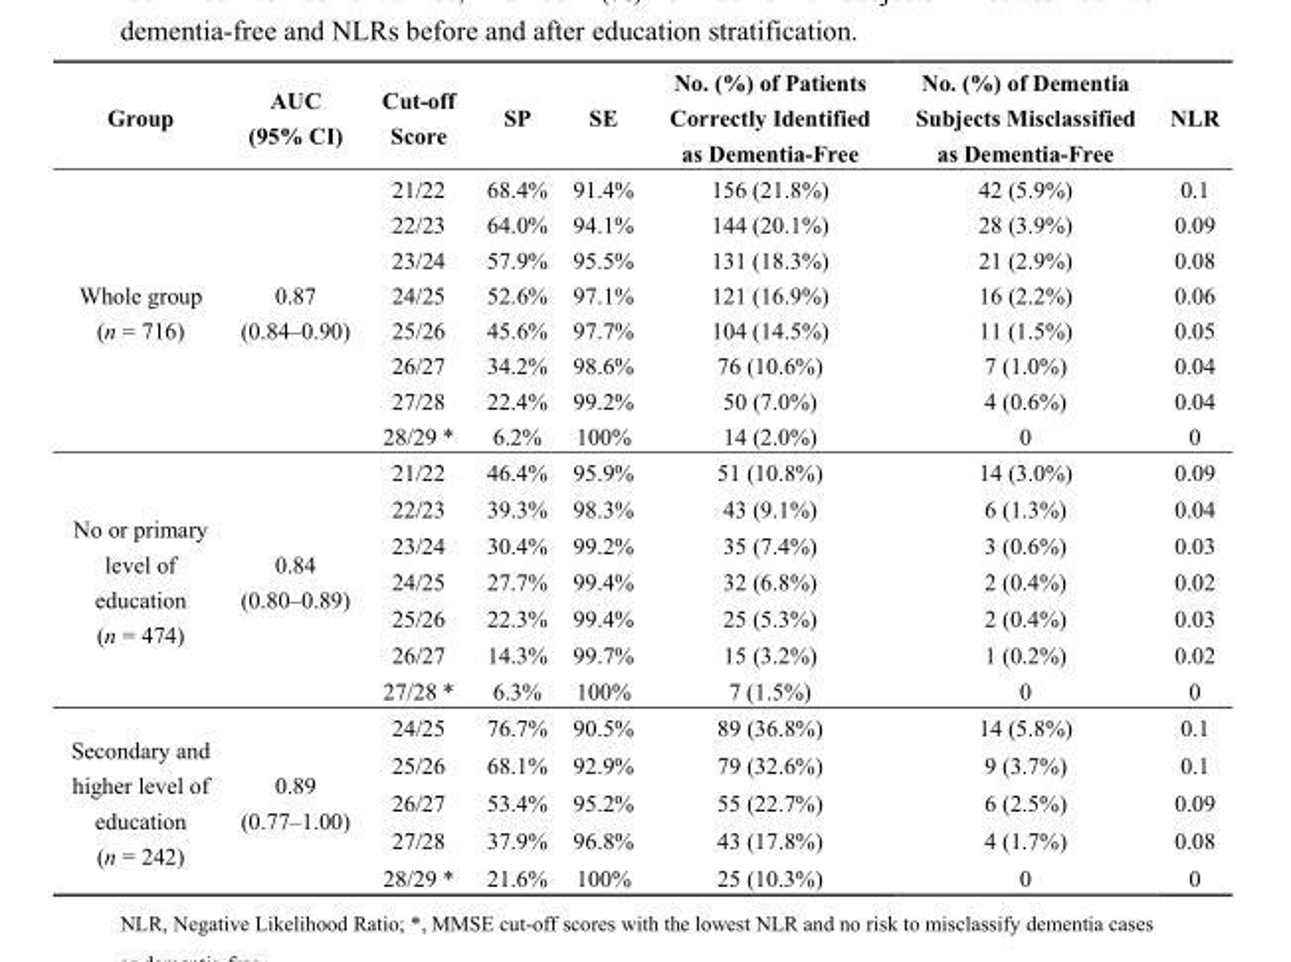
<table><thead><tr><td>Group</td><td>AUC (95% CI)</td><td>Cut-off Score</td><td>SP</td><td>SE</td><td>No. (%) of Patients Correctly Identified as Dementia-Free</td><td>No. (%) of Dementia Subjects Misclassified as Dementia-Free</td><td>NLR</td></tr></thead><tbody><tr><td rowspan="8">Whole group (n = 716)</td><td rowspan="8">0.87 (0.84–0.90)</td><td>21/22</td><td>68.4%</td><td>91.4%</td><td>156 (21.8%)</td><td>42 (5.9%)</td><td>0.1</td></tr><tr><td>22/23</td><td>64.0%</td><td>94.1%</td><td>144 (20.1%)</td><td>28 (3.9%)</td><td>0.09</td></tr><tr><td>23/24</td><td>57.9%</td><td>95.5%</td><td>131 (18.3%)</td><td>21 (2.9%)</td><td>0.08</td></tr><tr><td>24/25</td><td>52.6%</td><td>97.1%</td><td>121 (16.9%)</td><td>16 (2.2%)</td><td>0.06</td></tr><tr><td>25/26</td><td>45.6%</td><td>97.7%</td><td>104 (14.5%)</td><td>11 (1.5%)</td><td>0.05</td></tr><tr><td>26/27</td><td>34.2%</td><td>98.6%</td><td>76 (10.6%)</td><td>7 (1.0%)</td><td>0.04</td></tr><tr><td>27/28</td><td>22.4%</td><td>99.2%</td><td>50 (7.0%)</td><td>4 (0.6%)</td><td>0.04</td></tr><tr><td>28/29 *</td><td>6.2%</td><td>100%</td><td>14 (2.0%)</td><td>0</td><td>0</td></tr><tr><td rowspan="7">No or primary level of education (n = 474)</td><td rowspan="7">0.84 (0.80–0.89)</td><td>21/22</td><td>46.4%</td><td>95.9%</td><td>51 (10.8%)</td><td>14 (3.0%)</td><td>0.09</td></tr><tr><td>22/23</td><td>39.3%</td><td>98.3%</td><td>43 (9.1%)</td><td>6 (1.3%)</td><td>0.04</td></tr><tr><td>23/24</td><td>30.4%</td><td>99.2%</td><td>35 (7.4%)</td><td>3 (0.6%)</td><td>0.03</td></tr><tr><td>24/25</td><td>27.7%</td><td>99.4%</td><td>32 (6.8%)</td><td>2 (0.4%)</td><td>0.02</td></tr><tr><td>25/26</td><td>22.3%</td><td>99.4%</td><td>25 (5.3%)</td><td>2 (0.4%)</td><td>0.03</td></tr><tr><td>26/27</td><td>14.3%</td><td>99.7%</td><td>15 (3.2%)</td><td>1 (0.2%)</td><td>0.02</td></tr><tr><td>27/28 *</td><td>6.3%</td><td>100%</td><td>7 (1.5%)</td><td>0</td><td>0</td></tr><tr><td rowspan="5">Secondary and higher level of education (n = 242)</td><td rowspan="5">0.89 (0.77–1.00)</td><td>24/25</td><td>76.7%</td><td>90.5%</td><td>89 (36.8%)</td><td>14 (5.8%)</td><td>0.1</td></tr><tr><td>25/26</td><td>68.1%</td><td>92.9%</td><td>79 (32.6%)</td><td>9 (3.7%)</td><td>0.1</td></tr><tr><td>26/27</td><td>53.4%</td><td>95.2%</td><td>55 (22.7%)</td><td>6 (2.5%)</td><td>0.09</td></tr><tr><td>27/28</td><td>37.9%</td><td>96.8%</td><td>43 (17.8%)</td><td>4 (1.7%)</td><td>0.08</td></tr><tr><td>28/29 *</td><td>21.6%</td><td>100%</td><td>25 (10.3%)</td><td>0</td><td>0</td></tr></tbody></table>